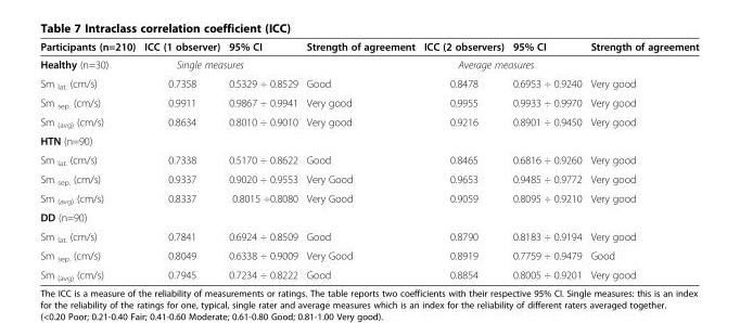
<table><thead><tr><td>Participants (n=210)</td><td>ICC (1 observer)</td><td>95% CI</td><td>Strength of agreement</td><td>ICC (2 observers)</td><td>95% CI</td><td>Strength of agreement</td></tr></thead><tbody><tr><td>Healthy (n=30)</td><td colspan="2">Single measures</td><td></td><td colspan="2">Average measures</td><td></td></tr><tr><td>Sm <sub>lat.</sub> (cm/s)</td><td>0.7358</td><td>0.5329 ÷ 0.8529</td><td>Good</td><td>0.8478</td><td>0.6953 ÷ 0.9240</td><td>Very good</td></tr><tr><td>Sm <sub>sep.</sub> (cm/s)</td><td>0.9911</td><td>0.9867 ÷ 0.9941</td><td>Very good</td><td>0.9955</td><td>0.9933 ÷ 0.9970</td><td>Very good</td></tr><tr><td>Sm <sub>(avg)</sub> (cm/s)</td><td>0.8634</td><td>0.8010 ÷ 0.9010</td><td>Very good</td><td>0.9216</td><td>0.8901 ÷ 0.9450</td><td>Very good</td></tr><tr><td colspan="7">HTN (n=90)</td></tr><tr><td>Sm <sub>lat.</sub> (cm/s)</td><td>0.7338</td><td>0.5170 ÷ 0.8622</td><td>Good</td><td>0.8465</td><td>0.6816 ÷ 0.9260</td><td>Very good</td></tr><tr><td>Sm <sub>sep.</sub> (cm/s)</td><td>0.9337</td><td>0.9020 ÷ 0.9553</td><td>Very Good</td><td>0.9653</td><td>0.9485 ÷ 0.9772</td><td>Very good</td></tr><tr><td>Sm <sub>(avg)</sub> (cm/s)</td><td>0.8337</td><td>0.8015 ÷0.8080</td><td>Very Good</td><td>0.9059</td><td>0.8095 ÷ 0.9210</td><td>Very good</td></tr><tr><td colspan="7">DD (n=90)</td></tr><tr><td>Sm <sub>lat.</sub> (cm/s)</td><td>0.7841</td><td>0.6924 ÷ 0.8509</td><td>Good</td><td>0.8790</td><td>0.8183 ÷ 0.9194</td><td>Very good</td></tr><tr><td>Sm <sub>sep.</sub> (cm/s)</td><td>0.8049</td><td>0.6338 ÷ 0.9009</td><td>Very Good</td><td>0.8919</td><td>0.7759 ÷ 0.9479</td><td>Good</td></tr><tr><td>Sm <sub>(avg)</sub> (cm/s)</td><td>0.7945</td><td>0.7234 ÷ 0.8222</td><td>Good</td><td>0.8854</td><td>0.8005 ÷ 0.9201</td><td>Very good</td></tr></tbody></table>